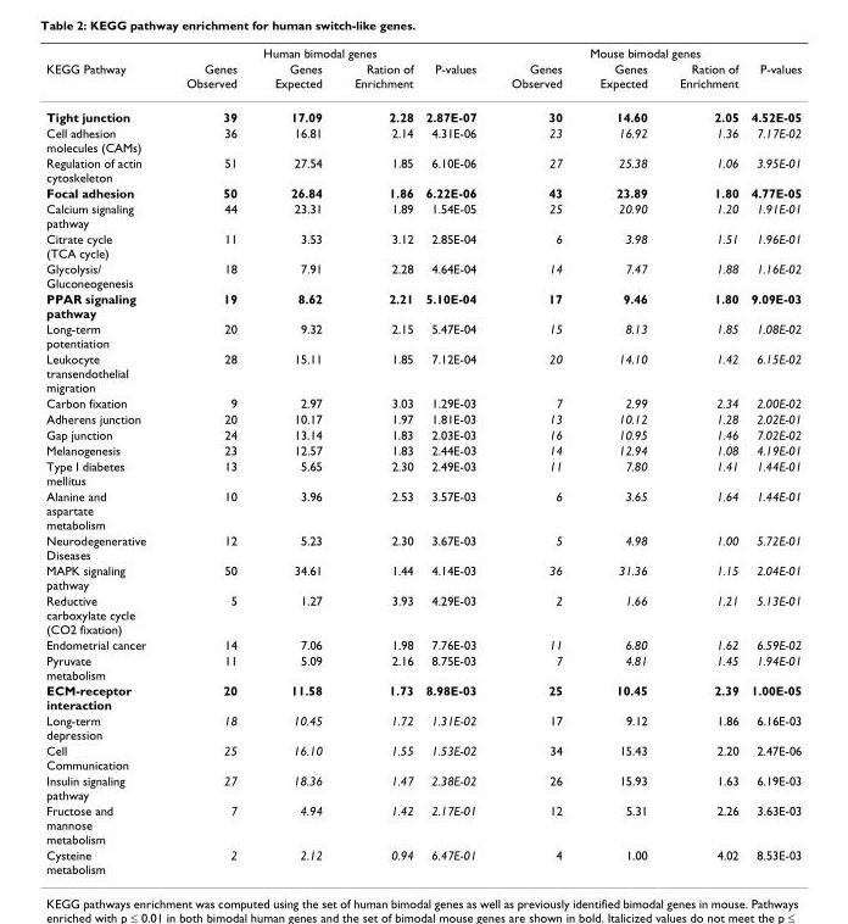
<table><thead><tr><td rowspan="2">KEGG Pathway</td><td colspan="4">Human bimodal genes</td><td colspan="4">Mouse bimodal genes</td></tr><tr><td>Genes Observed</td><td>Genes Expected</td><td>Ration of Enrichment</td><td>P-values</td><td>Genes Observed</td><td>Genes Expected</td><td>Ration of Enrichment</td><td>P-values</td></tr></thead><tbody><tr><td>Tight junction</td><td>39</td><td>17.09</td><td>2.28</td><td>2.87E-07</td><td>30</td><td>14.60</td><td>2.05</td><td>4.52E-05</td></tr><tr><td>Cell adhesion molecules (CAMs)</td><td>36</td><td>16.81</td><td>2.14</td><td>4.31E-06</td><td>23</td><td>16.92</td><td>1.36</td><td>7.17E-02</td></tr><tr><td>Regulation of actin cytoskeleton</td><td>51</td><td>27.54</td><td>1.85</td><td>6.10E-06</td><td>27</td><td>25.38</td><td>1.06</td><td>3.95E-01</td></tr><tr><td>Focal adhesion</td><td>50</td><td>26.84</td><td>1.86</td><td>6.22E-06</td><td>43</td><td>23.89</td><td>1.80</td><td>4.77E-05</td></tr><tr><td>Calcium signaling pathway</td><td>44</td><td>23.31</td><td>1.89</td><td>1.54E-05</td><td>25</td><td>20.90</td><td>1.20</td><td>1.91E-01</td></tr><tr><td>Citrate cycle (TCA cycle)</td><td>11</td><td>3.53</td><td>3.12</td><td>2.85E-04</td><td>6</td><td>3.98</td><td>1.51</td><td>1.96E-01</td></tr><tr><td>Glycolysis/ Gluconeogenesis</td><td>18</td><td>7.91</td><td>2.28</td><td>4.64E-04</td><td>14</td><td>7.47</td><td>1.88</td><td>1.16E-02</td></tr><tr><td>PPAR signaling pathway</td><td>19</td><td>8.62</td><td>2.21</td><td>5.10E-04</td><td>17</td><td>9.46</td><td>1.80</td><td>9.09E-03</td></tr><tr><td>Long-term potentiation</td><td>20</td><td>9.32</td><td>2.15</td><td>5.47E-04</td><td>15</td><td>8.13</td><td>1.85</td><td>1.08E-02</td></tr><tr><td>Leukocyte transendothelial migration</td><td>28</td><td>15.11</td><td>1.85</td><td>7.12E-04</td><td>20</td><td>14.10</td><td>1.42</td><td>6.15E-02</td></tr><tr><td>Carbon fixation</td><td>9</td><td>2.97</td><td>3.03</td><td>1.29E-03</td><td>7</td><td>2.99</td><td>2.34</td><td>2.00E-02</td></tr><tr><td>Adherens junction</td><td>20</td><td>10.17</td><td>1.97</td><td>1.81E-03</td><td>13</td><td>10.12</td><td>1.28</td><td>2.02E-01</td></tr><tr><td>Gap junction</td><td>24</td><td>13.14</td><td>1.83</td><td>2.03E-03</td><td>16</td><td>10.95</td><td>1.46</td><td>7.02E-02</td></tr><tr><td>Melanogenesis</td><td>23</td><td>12.57</td><td>1.83</td><td>2.44E-03</td><td>14</td><td>12.94</td><td>1.08</td><td>4.19E-01</td></tr><tr><td>Type I diabetes mellitus</td><td>13</td><td>5.65</td><td>2.30</td><td>2.49E-03</td><td>11</td><td>7.80</td><td>1.41</td><td>1.44E-01</td></tr><tr><td>Alanine and aspartate metabolism</td><td>10</td><td>3.96</td><td>2.53</td><td>3.57E-03</td><td>6</td><td>3.65</td><td>1.64</td><td>1.44E-01</td></tr><tr><td>Neurodegenerative Diseases</td><td>12</td><td>5.23</td><td>2.30</td><td>3.67E-03</td><td>5</td><td>4.98</td><td>1.00</td><td>5.72E-01</td></tr><tr><td>MAPK signaling pathway</td><td>50</td><td>34.61</td><td>1.44</td><td>4.14E-03</td><td>36</td><td>31.36</td><td>1.15</td><td>2.04E-01</td></tr><tr><td>Reductive carboxylate cycle (CO2 fixation)</td><td>5</td><td>1.27</td><td>3.93</td><td>4.29E-03</td><td>2</td><td>1.66</td><td>1.21</td><td>5.13E-01</td></tr><tr><td>Endometrial cancer</td><td>14</td><td>7.06</td><td>1.98</td><td>7.76E-03</td><td>11</td><td>6.80</td><td>1.62</td><td>6.59E-02</td></tr><tr><td>Pyruvate metabolism</td><td>11</td><td>5.09</td><td>2.16</td><td>8.75E-03</td><td>7</td><td>4.81</td><td>1.45</td><td>1.94E-01</td></tr><tr><td>ECM-receptor interaction</td><td>20</td><td>11.58</td><td>1.73</td><td>8.98E-03</td><td>25</td><td>10.45</td><td>2.39</td><td>1.00E-05</td></tr><tr><td>Long-term depression</td><td>18</td><td>10.45</td><td>1.72</td><td>1.31E-02</td><td>17</td><td>9.12</td><td>1.86</td><td>6.16E-03</td></tr><tr><td>Cell Communication</td><td>25</td><td>16.10</td><td>1.55</td><td>1.53E-02</td><td>34</td><td>15.43</td><td>2.20</td><td>2.47E-06</td></tr><tr><td>Insulin signaling pathway</td><td>27</td><td>18.36</td><td>1.47</td><td>2.38E-02</td><td>26</td><td>15.93</td><td>1.63</td><td>6.19E-03</td></tr><tr><td>Fructose and mannose metabolism</td><td>7</td><td>4.94</td><td>1.42</td><td>2.17E-01</td><td>12</td><td>5.31</td><td>2.26</td><td>3.63E-03</td></tr><tr><td>Cysteine metabolism</td><td>2</td><td>2.12</td><td>0.94</td><td>6.47E-01</td><td>4</td><td>1.00</td><td>4.02</td><td>8.53E-03</td></tr></tbody></table>